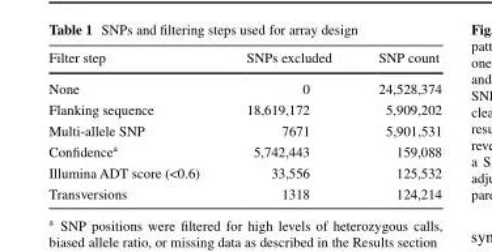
<table><thead><tr><td>Filter step</td><td>SNPs excluded</td><td>SNP count</td></tr></thead><tbody><tr><td>None</td><td>0</td><td>24,528,374</td></tr><tr><td>Flanking sequence</td><td>18,619,172</td><td>5,909,202</td></tr><tr><td>Multi-allele SNP</td><td>7671</td><td>5,901,531</td></tr><tr><td>Confidence<sup>a</sup></td><td>5,742,443</td><td>159,088</td></tr><tr><td>Illumina ADT score (&lt;0.6)</td><td>33,556</td><td>125,532</td></tr><tr><td>Transversions</td><td>1318</td><td>124,214</td></tr></tbody></table>